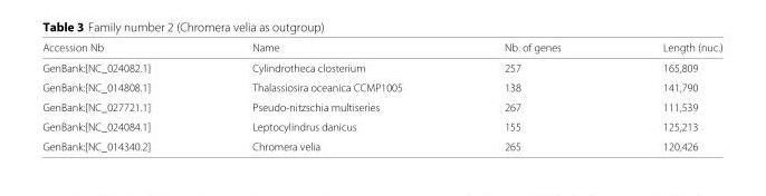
<table><thead><tr><td>Accession Nb</td><td>Name</td><td>Nb. of genes</td><td>Length (nuc.)</td></tr></thead><tbody><tr><td>GenBank:[NC_024082.1]</td><td>Cylindrotheca closterium</td><td>257</td><td>165,809</td></tr><tr><td>GenBank:[NC_014808.1]</td><td>Thalassiosira oceanica CCMP1005</td><td>138</td><td>141,790</td></tr><tr><td>GenBank:[NC_027721.1]</td><td>Pseudo-nitzschia multiseries</td><td>267</td><td>111,539</td></tr><tr><td>GenBank:[NC_024084.1]</td><td>Leptocylindrus danicus</td><td>155</td><td>125,213</td></tr><tr><td>GenBank:[NC_014340.2]</td><td>Chromera velia</td><td>265</td><td>120,426</td></tr></tbody></table>